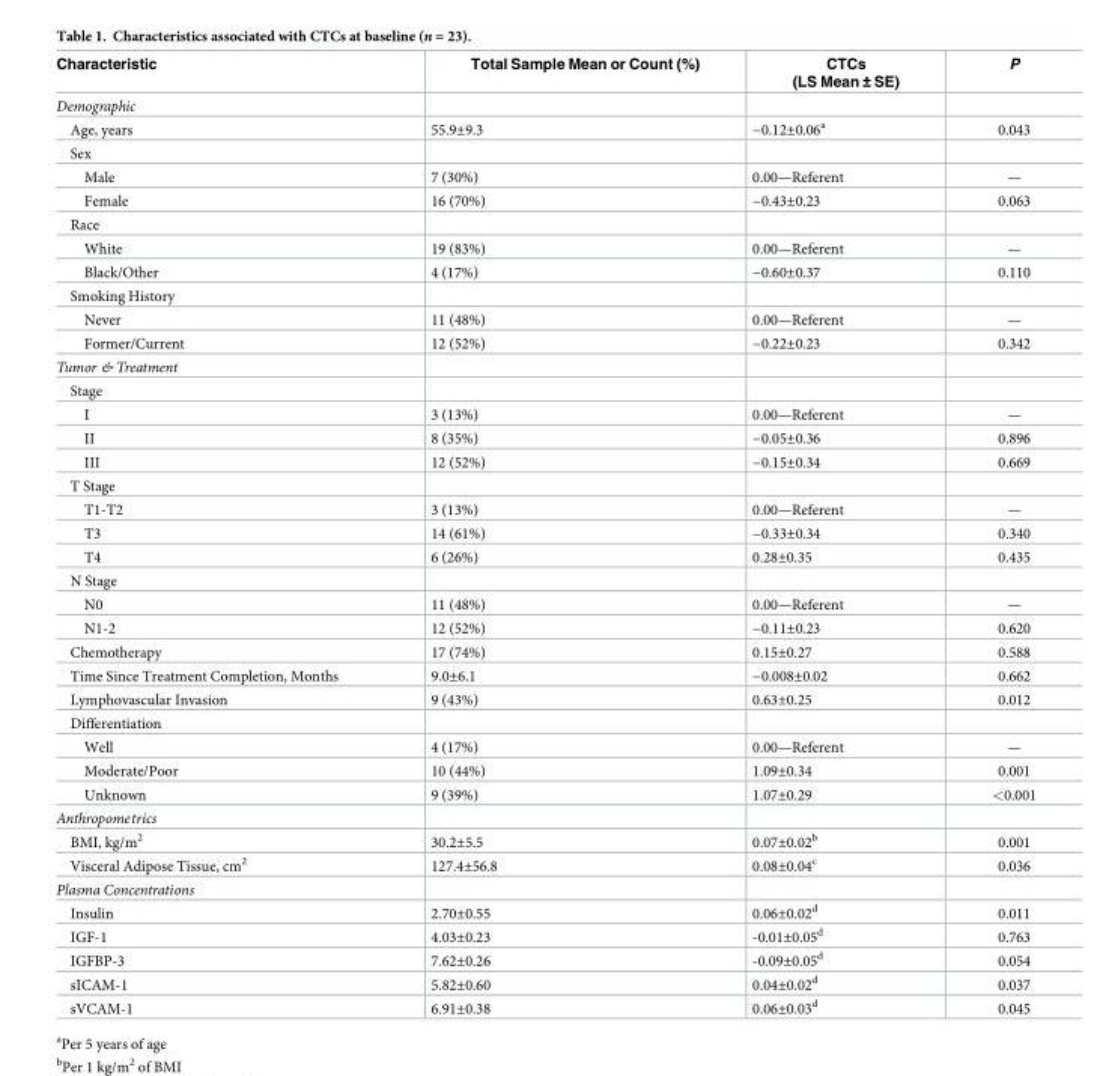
<table><thead><tr><td>Characteristic</td><td>Total Sample Mean or Count (%)</td><td>CTCs (LS Mean ± SE)</td><td>P</td></tr></thead><tbody><tr><td colspan="4">Demographic</td></tr><tr><td>Age, years</td><td>55.9±9.3</td><td>−0.12±0.06<sup>a</sup></td><td>0.043</td></tr><tr><td colspan="4">Sex</td></tr><tr><td>Male</td><td>7 (30%)</td><td>0.00—Referent</td><td>—</td></tr><tr><td>Female</td><td>16 (70%)</td><td>−0.43±0.23</td><td>0.063</td></tr><tr><td colspan="4">Race</td></tr><tr><td>White</td><td>19 (83%)</td><td>0.00—Referent</td><td>—</td></tr><tr><td>Black/Other</td><td>4 (17%)</td><td>−0.60±0.37</td><td>0.110</td></tr><tr><td colspan="4">Smoking History</td></tr><tr><td>Never</td><td>11 (48%)</td><td>0.00—Referent</td><td>—</td></tr><tr><td>Former/Current</td><td>12 (52%)</td><td>−0.22±0.23</td><td>0.342</td></tr><tr><td colspan="4">Tumor &amp; Treatment</td></tr><tr><td colspan="4">Stage</td></tr><tr><td>I</td><td>3 (13%)</td><td>0.00—Referent</td><td>—</td></tr><tr><td>II</td><td>8 (35%)</td><td>−0.05±0.36</td><td>0.896</td></tr><tr><td>III</td><td>12 (52%)</td><td>−0.15±0.34</td><td>0.669</td></tr><tr><td colspan="4">T Stage</td></tr><tr><td>T1-T2</td><td>3 (13%)</td><td>0.00—Referent</td><td>—</td></tr><tr><td>T3</td><td>14 (61%)</td><td>−0.33±0.34</td><td>0.340</td></tr><tr><td>T4</td><td>6 (26%)</td><td>0.28±0.35</td><td>0.435</td></tr><tr><td colspan="4">N Stage</td></tr><tr><td>N0</td><td>11 (48%)</td><td>0.00—Referent</td><td>—</td></tr><tr><td>N1-2</td><td>12 (52%)</td><td>−0.11±0.23</td><td>0.620</td></tr><tr><td>Chemotherapy</td><td>17 (74%)</td><td>0.15±0.27</td><td>0.588</td></tr><tr><td>Time Since Treatment Completion, Months</td><td>9.0±6.1</td><td>−0.008±0.02</td><td>0.662</td></tr><tr><td>Lymphovascular Invasion</td><td>9 (43%)</td><td>0.63±0.25</td><td>0.012</td></tr><tr><td colspan="4">Differentiation</td></tr><tr><td>Well</td><td>4 (17%)</td><td>0.00—Referent</td><td>—</td></tr><tr><td>Moderate/Poor</td><td>10 (44%)</td><td>1.09±0.34</td><td>0.001</td></tr><tr><td>Unknown</td><td>9 (39%)</td><td>1.07±0.29</td><td>&lt;0.001</td></tr><tr><td colspan="4">Anthropometrics</td></tr><tr><td>BMI, kg/m<sup>2</sup></td><td>30.2±5.5</td><td>0.07±0.02<sup>b</sup></td><td>0.001</td></tr><tr><td>Visceral Adipose Tissue, cm<sup>2</sup></td><td>127.4±56.8</td><td>0.08±0.04<sup>c</sup></td><td>0.036</td></tr><tr><td colspan="4">Plasma Concentrations</td></tr><tr><td>Insulin</td><td>2.70±0.55</td><td>0.06±0.02<sup>d</sup></td><td>0.011</td></tr><tr><td>IGF-1</td><td>4.03±0.23</td><td>-0.01±0.05<sup>d</sup></td><td>0.763</td></tr><tr><td>IGFBP-3</td><td>7.62±0.26</td><td>-0.09±0.05<sup>d</sup></td><td>0.054</td></tr><tr><td>sICAM-1</td><td>5.82±0.60</td><td>0.04±0.02<sup>d</sup></td><td>0.037</td></tr><tr><td>sVCAM-1</td><td>6.91±0.38</td><td>0.06±0.03<sup>d</sup></td><td>0.045</td></tr></tbody></table>